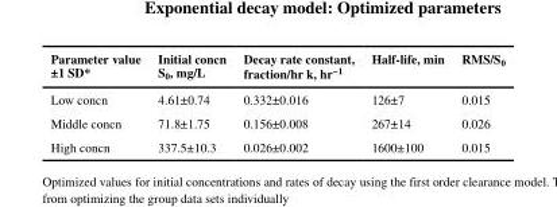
<table><thead><tr><td>Parameter value ±1 SD*</td><td>Initial concn S<sub>0</sub>, mg/L</td><td>Decay rate constant, fraction/hr k, hr<sup>−1</sup></td><td>Half-life, min</td><td>RMS/S<sub>0</sub></td></tr></thead><tbody><tr><td>Low concn</td><td>4.61±0.74</td><td>0.332±0.016</td><td>126±7</td><td>0.015</td></tr><tr><td>Middle concn</td><td>71.8±1.75</td><td>0.156±0.008</td><td>267±14</td><td>0.026</td></tr><tr><td>High concn</td><td>337.5±10.3</td><td>0.026±0.002</td><td>1600±100</td><td>0.015</td></tr></tbody></table>